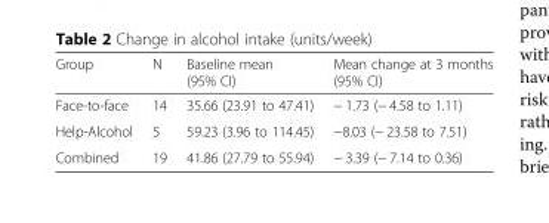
<table><thead><tr><td>Group</td><td>N</td><td>Baseline mean (95% CI)</td><td>Mean change at 3 months (95% CI)</td></tr></thead><tbody><tr><td>Face-to-face</td><td>14</td><td>35.66 (23.91 to 47.41)</td><td>− 1.73 (− 4.58 to 1.11)</td></tr><tr><td>Help-Alcohol</td><td>5</td><td>59.23 (3.96 to 114.45)</td><td>−8.03 (− 23.58 to 7.51)</td></tr><tr><td>Combined</td><td>19</td><td>41.86 (27.79 to 55.94)</td><td>− 3.39 (− 7.14 to 0.36)</td></tr></tbody></table>